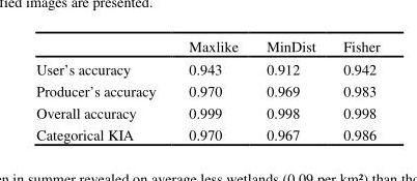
<table><thead><tr><td></td><td>Maxlike</td><td>MinDist</td><td>Fisher</td></tr></thead><tbody><tr><td>User’s accuracy</td><td>0.943</td><td>0.912</td><td>0.942</td></tr><tr><td>Producer’s accuracy</td><td>0.970</td><td>0.969</td><td>0.983</td></tr><tr><td>Overall accuracy</td><td>0.999</td><td>0.998</td><td>0.998</td></tr><tr><td>Categorical KIA</td><td>0.970</td><td>0.967</td><td>0.986</td></tr></tbody></table>